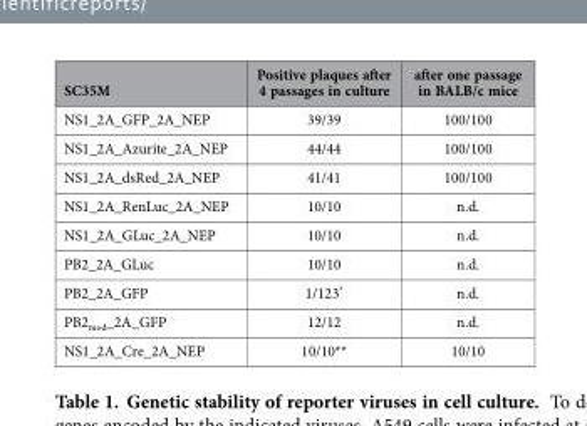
<table><thead><tr><td>SC35M</td><td>Positive plaques after 4 passages in culture</td><td>after one passage in BALB/c mice</td></tr></thead><tbody><tr><td>NS1_2A_GFP_2A_NEP</td><td>39/39</td><td>100/100</td></tr><tr><td>NS1_2A_Azurite_2A_NEP</td><td>44/44</td><td>100/100</td></tr><tr><td>NS1_2A_dsRed_2A_NEP</td><td>41/41</td><td>100/100</td></tr><tr><td>NS1_2A_RenLuc_2A_NEP</td><td>10/10</td><td>n.d.</td></tr><tr><td>NS1_2A_GLuc_2A_NEP</td><td>10/10</td><td>n.d.</td></tr><tr><td>PB2_2A_GLuc</td><td>10/10</td><td>n.d.</td></tr><tr><td>PB2_2A_GFP</td><td>1/123*</td><td>n.d.</td></tr><tr><td>PB2mod_2A_GFP</td><td>12/12</td><td>n.d.</td></tr><tr><td>NS1_2A_Cre_2A_NEP</td><td>10/10**</td><td>10/10</td></tr></tbody></table>